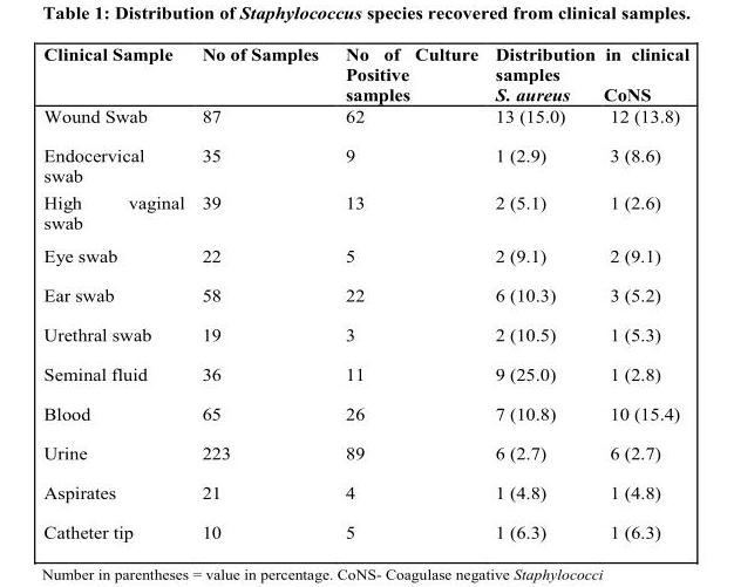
<table><thead><tr><td rowspan="2">Clinical Sample</td><td rowspan="2">No of Samples</td><td rowspan="2">No of Culture Positive samples</td><td colspan="2">Distribution in clinical samples</td></tr><tr><td>S. aureus</td><td>CoNS</td></tr></thead><tbody><tr><td>Wound Swab</td><td>87</td><td>62</td><td>13 (15.0)</td><td>12 (13.8)</td></tr><tr><td>Endocervical swab</td><td>35</td><td>9</td><td>1 (2.9)</td><td>3 (8.6)</td></tr><tr><td>High vaginal swab</td><td>39</td><td>13</td><td>2 (5.1)</td><td>1 (2.6)</td></tr><tr><td>Eye swab</td><td>22</td><td>5</td><td>2 (9.1)</td><td>2 (9.1)</td></tr><tr><td>Ear swab</td><td>58</td><td>22</td><td>6 (10.3)</td><td>3 (5.2)</td></tr><tr><td>Urethral swab</td><td>19</td><td>3</td><td>2 (10.5)</td><td>1 (5.3)</td></tr><tr><td>Seminal fluid</td><td>36</td><td>11</td><td>9 (25.0)</td><td>1 (2.8)</td></tr><tr><td>Blood</td><td>65</td><td>26</td><td>7 (10.8)</td><td>10 (15.4)</td></tr><tr><td>Urine</td><td>223</td><td>89</td><td>6 (2.7)</td><td>6 (2.7)</td></tr><tr><td>Aspirates</td><td>21</td><td>4</td><td>1 (4.8)</td><td>1 (4.8)</td></tr><tr><td>Catheter tip</td><td>10</td><td>5</td><td>1 (6.3)</td><td>1 (6.3)</td></tr></tbody></table>